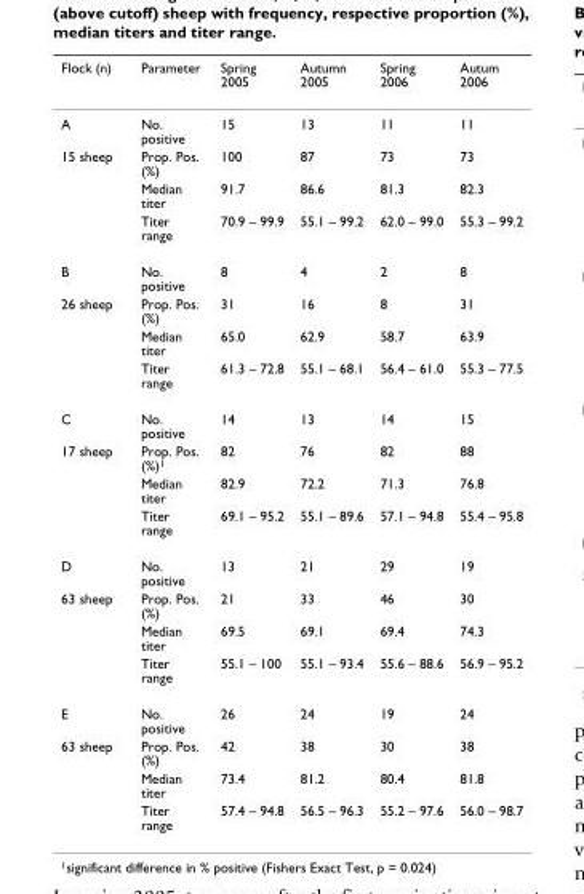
<table><thead><tr><td>Flock (n)</td><td>Parameter</td><td>Spring 2005</td><td>Autumn 2005</td><td>Spring 2006</td><td>Autum 2006</td></tr></thead><tbody><tr><td>A</td><td>No. positive</td><td>15</td><td>13</td><td>11</td><td>11</td></tr><tr><td rowspan="3">15 sheep</td><td>Prop. Pos. (%)</td><td>100</td><td>87</td><td>73</td><td>73</td></tr><tr><td>Median titer</td><td>91.7</td><td>86.6</td><td>81.3</td><td>82.3</td></tr><tr><td>Titer range</td><td>70.9 – 99.9</td><td>55.1 – 99.2</td><td>62.0 – 99.0</td><td>55.3 – 99.2</td></tr><tr><td>B</td><td>No. positive</td><td>8</td><td>4</td><td>2</td><td>8</td></tr><tr><td rowspan="3">26 sheep</td><td>Prop. Pos. (%)</td><td>31</td><td>16</td><td>8</td><td>31</td></tr><tr><td>Median titer</td><td>65.0</td><td>62.9</td><td>58.7</td><td>63.9</td></tr><tr><td>Titer range</td><td>61.3 – 72.8</td><td>55.1 – 68.1</td><td>56.4 – 61.0</td><td>55.3 – 77.5</td></tr><tr><td>C</td><td>No. positive</td><td>14</td><td>13</td><td>14</td><td>15</td></tr><tr><td rowspan="3">17 sheep</td><td>Prop. Pos. (%)<sup>1</sup></td><td>82</td><td>76</td><td>82</td><td>88</td></tr><tr><td>Median titer</td><td>82.9</td><td>72.2</td><td>71.3</td><td>76.8</td></tr><tr><td>Titer range</td><td>69.1 – 95.2</td><td>55.1 – 89.6</td><td>57.1 – 94.8</td><td>55.4 – 95.8</td></tr><tr><td>D</td><td>No. positive</td><td>13</td><td>21</td><td>29</td><td>19</td></tr><tr><td rowspan="3">63 sheep</td><td>Prop. Pos. (%)</td><td>21</td><td>33</td><td>46</td><td>30</td></tr><tr><td>Median titer</td><td>69.5</td><td>69.1</td><td>69.4</td><td>74.3</td></tr><tr><td>Titer range</td><td>55.1 – 100</td><td>55.1 – 93.4</td><td>55.6 – 88.6</td><td>56.9 – 95.2</td></tr><tr><td>E</td><td>No. positive</td><td>26</td><td>24</td><td>19</td><td>24</td></tr><tr><td rowspan="3">63 sheep</td><td>Prop. Pos. (%)</td><td>42</td><td>38</td><td>30</td><td>38</td></tr><tr><td>Median titer</td><td>73.4</td><td>81.2</td><td>80.4</td><td>81.8</td></tr><tr><td>Titer range</td><td>57.4 – 94.8</td><td>56.5 – 96.3</td><td>55.2 – 97.6</td><td>56.0 – 98.7</td></tr></tbody></table>